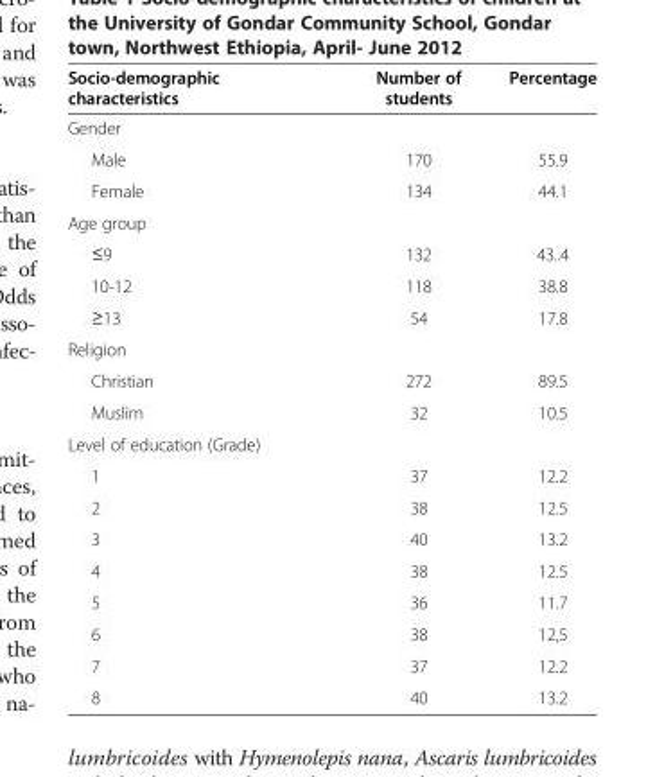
<table><thead><tr><td>Socio-demographic characteristics</td><td>Number of students</td><td>Percentage</td></tr></thead><tbody><tr><td colspan="3">Gender</td></tr><tr><td>Male</td><td>170</td><td>55.9</td></tr><tr><td>Female</td><td>134</td><td>44.1</td></tr><tr><td colspan="3">Age group</td></tr><tr><td>≤9</td><td>132</td><td>43..4</td></tr><tr><td>10-12</td><td>118</td><td>38.8</td></tr><tr><td>≥13</td><td>54</td><td>17.8</td></tr><tr><td colspan="3">Religion</td></tr><tr><td>Christian</td><td>272</td><td>89.5</td></tr><tr><td>Muslim</td><td>32</td><td>10.5</td></tr><tr><td colspan="3">Level of education (Grade)</td></tr><tr><td>1</td><td>37</td><td>12.2</td></tr><tr><td>2</td><td>38</td><td>12.5</td></tr><tr><td>3</td><td>40</td><td>13.2</td></tr><tr><td>4</td><td>38</td><td>12.5</td></tr><tr><td>5</td><td>36</td><td>11.7</td></tr><tr><td>6</td><td>38</td><td>12,5</td></tr><tr><td>7</td><td>37</td><td>12.2</td></tr><tr><td>8</td><td>40</td><td>13.2</td></tr></tbody></table>